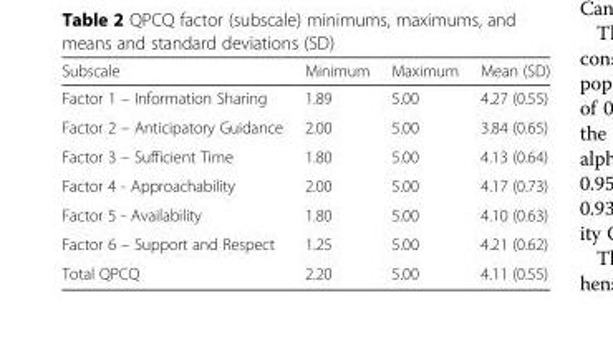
<table><thead><tr><td>Subscale</td><td>Minimum</td><td>Maximum</td><td>Mean (SD)</td></tr></thead><tbody><tr><td>Factor 1 – Information Sharing</td><td>1.89</td><td>5.00</td><td>4.27 (0.55)</td></tr><tr><td>Factor 2 – Anticipatory Guidance</td><td>2.00</td><td>5.00</td><td>3.84 (0.65)</td></tr><tr><td>Factor 3 – Sufficient Time</td><td>1.80</td><td>5.00</td><td>4.13 (0.64)</td></tr><tr><td>Factor 4 - Approachability</td><td>2.00</td><td>5.00</td><td>4.17 (0.73)</td></tr><tr><td>Factor 5 - Availability</td><td>1.80</td><td>5.00</td><td>4.10 (0.63)</td></tr><tr><td>Factor 6 – Support and Respect</td><td>1.25</td><td>5.00</td><td>4.21 (0.62)</td></tr><tr><td>Total QPCQ</td><td>2.20</td><td>5.00</td><td>4.11 (0.55)</td></tr></tbody></table>